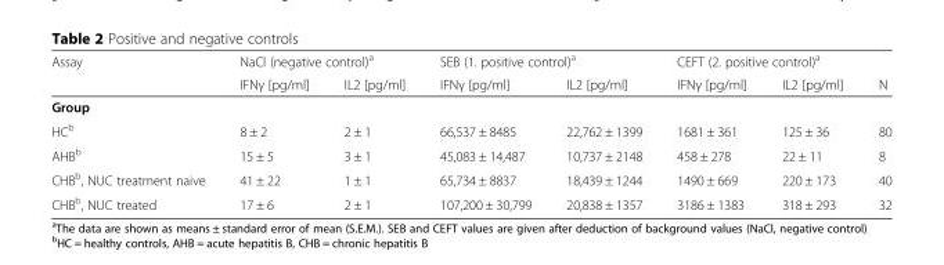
<table><thead><tr><td rowspan="2">Assay</td><td colspan="2">NaCl (negative control)<sup>a</sup></td><td colspan="2">SEB (1. positive control)<sup>a</sup></td><td colspan="2">CEFT (2. positive control)<sup>a</sup></td><td rowspan="2">N</td></tr><tr><td>IFNγ [pg/ml]</td><td>IL2 [pg/ml]</td><td>IFNγ [pg/ml]</td><td>IL2 [pg/ml]</td><td>IFNγ [pg/ml]</td><td>IL2 [pg/ml]</td></tr></thead><tbody><tr><td colspan="8">Group</td></tr><tr><td>HC<sup>b</sup></td><td>8 ± 2</td><td>2 ± 1</td><td>66,537 ± 8485</td><td>22,762 ± 1399</td><td>1681 ± 361</td><td>125 ± 36</td><td>80</td></tr><tr><td>AHB<sup>b</sup></td><td>15 ± 5</td><td>3 ± 1</td><td>45,083 ± 14,487</td><td>10,737 ± 2148</td><td>458 ± 278</td><td>22 ± 11</td><td>8</td></tr><tr><td>CHB<sup>b</sup>, NUC treatment naive</td><td>41 ± 22</td><td>1 ± 1</td><td>65,734 ± 8837</td><td>18,439 ± 1244</td><td>1490 ± 669</td><td>220 ± 173</td><td>40</td></tr><tr><td>CHB<sup>b</sup>, NUC treated</td><td>17 ± 6</td><td>2 ± 1</td><td>107,200 ± 30,799</td><td>20,838 ± 1357</td><td>3186 ± 1383</td><td>318 ± 293</td><td>32</td></tr></tbody></table>